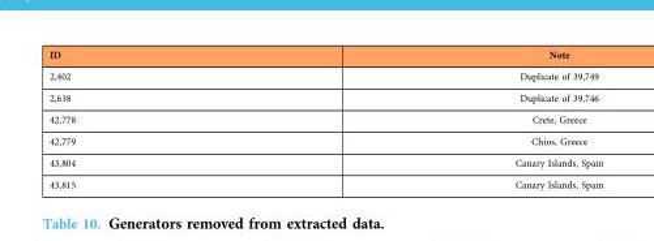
<table><thead><tr><td>ID</td><td>Note</td></tr></thead><tbody><tr><td>2,402</td><td>Duplicate of 39,749</td></tr><tr><td>2,638</td><td>Duplicate of 39,746</td></tr><tr><td>42,778</td><td>Crete, Greece</td></tr><tr><td>42,779</td><td>Chios, Greece</td></tr><tr><td>43,804</td><td>Canary Islands, Spain</td></tr><tr><td>43,815</td><td>Canary Islands, Spain</td></tr></tbody></table>